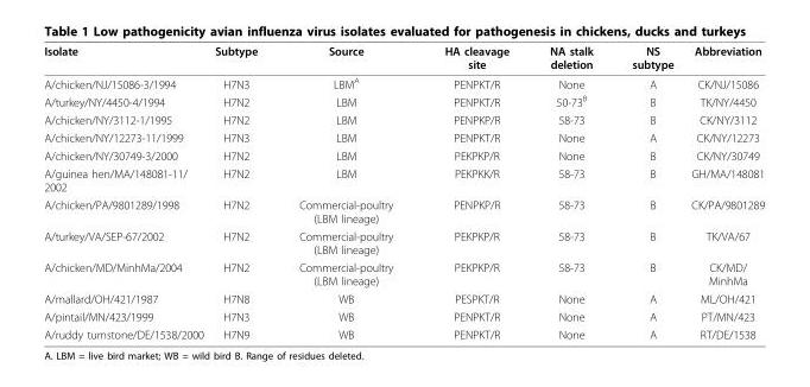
<table><thead><tr><td>Isolate</td><td>Subtype</td><td>Source</td><td>HA cleavage site</td><td>NA stalk deletion</td><td>NS subtype</td><td>Abbreviation</td></tr></thead><tbody><tr><td>A/chicken/NJ/15086-3/1994</td><td>H7N3</td><td>LBM<sup>A</sup></td><td>PENPKT/R</td><td>None</td><td>A</td><td>CK/NJ/15086</td></tr><tr><td>A/turkey/NY/4450-4/1994</td><td>H7N2</td><td>LBM</td><td>PENPKT/R</td><td>50-73<sup>B</sup></td><td>B</td><td>TK/NY/4450</td></tr><tr><td>A/chicken/NY/3112-1/1995</td><td>H7N2</td><td>LBM</td><td>PENPKP/R</td><td>58-73</td><td>B</td><td>CK/NY/3112</td></tr><tr><td>A/chicken/NY/12273-11/1999</td><td>H7N3</td><td>LBM</td><td>PENPKT/R</td><td>None</td><td>A</td><td>CK/NY/12273</td></tr><tr><td>A/chicken/NY/30749-3/2000</td><td>H7N2</td><td>LBM</td><td>PEKPKP/R</td><td>None</td><td>B</td><td>CK/NY/30749</td></tr><tr><td>A/guinea hen/MA/148081-11/ 2002</td><td>H7N2</td><td>LBM</td><td>PEKPKK/R</td><td>58-73</td><td>B</td><td>GH/MA/148081</td></tr><tr><td>A/chicken/PA/9801289/1998</td><td>H7N2</td><td>Commercial-poultry (LBM lineage)</td><td>PENPKP/R</td><td>58-73</td><td>B</td><td>CK/PA/9801289</td></tr><tr><td>A/turkey/VA/SEP-67/2002</td><td>H7N2</td><td>Commercial-poultry (LBM lineage)</td><td>PEKPKP/R</td><td>58-73</td><td>B</td><td>TK/VA/67</td></tr><tr><td>A/chicken/MD/MinhMa/2004</td><td>H7N2</td><td>Commercial-poultry (LBM lineage)</td><td>PEKPKP/R</td><td>58-73</td><td>B</td><td>CK/MD/ MinhMa</td></tr><tr><td>A/mallard/OH/421/1987</td><td>H7N8</td><td>WB</td><td>PESPKT/R</td><td>None</td><td>A</td><td>ML/OH/421</td></tr><tr><td>A/pintail/MN/423/1999</td><td>H7N3</td><td>WB</td><td>PENPKT/R</td><td>None</td><td>A</td><td>PT/MN/423</td></tr><tr><td>A/ruddy turnstone/DE/1538/2000</td><td>H7N9</td><td>WB</td><td>PENPKT/R</td><td>None</td><td>A</td><td>RT/DE/1538</td></tr></tbody></table>